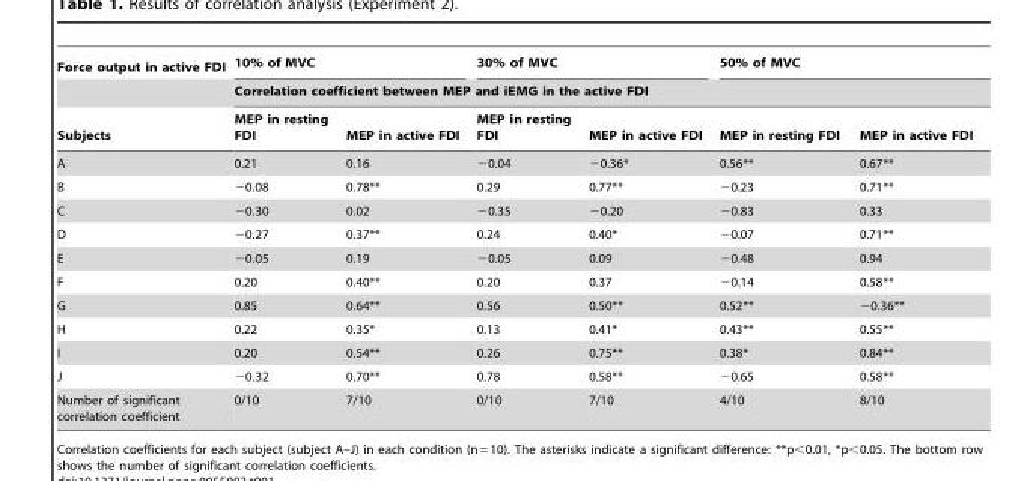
<table><thead><tr><td rowspan="3">Force output in active FDI Subjects</td><td colspan="2">10% of MVC</td><td colspan="2">30% of MVC</td><td colspan="2">50% of MVC</td></tr><tr><td colspan="6">Correlation coefficient between MEP and iEMG in the active FDI</td></tr><tr><td>MEP in resting FDI</td><td>MEP in active FDI</td><td>MEP in resting FDI</td><td>MEP in active FDI</td><td>MEP in resting FDI</td><td>MEP in active FDI</td></tr></thead><tbody><tr><td>A</td><td>0.21</td><td>0.16</td><td>−0.04</td><td>−0.36*</td><td>0.56**</td><td>0.67**</td></tr><tr><td>B</td><td>−0.08</td><td>0.78**</td><td>0.29</td><td>0.77**</td><td>−0.23</td><td>0.71**</td></tr><tr><td>C</td><td>−0.30</td><td>0.02</td><td>−0.35</td><td>−0.20</td><td>−0.83</td><td>0.33</td></tr><tr><td>D</td><td>−0.27</td><td>0.37**</td><td>0.24</td><td>0.40*</td><td>−0.07</td><td>0.71**</td></tr><tr><td>E</td><td>−0.05</td><td>0.19</td><td>−0.05</td><td>0.09</td><td>−0.48</td><td>0.94</td></tr><tr><td>F</td><td>0.20</td><td>0.40**</td><td>0.20</td><td>0.37</td><td>−0.14</td><td>0.58**</td></tr><tr><td>G</td><td>0.85</td><td>0.64**</td><td>0.56</td><td>0.50**</td><td>0.52**</td><td>−0.36**</td></tr><tr><td>H</td><td>0.22</td><td>0.35*</td><td>0.13</td><td>0.41*</td><td>0.43**</td><td>0.55**</td></tr><tr><td>I</td><td>0.20</td><td>0.54**</td><td>0.26</td><td>0.75**</td><td>0.38*</td><td>0.84**</td></tr><tr><td>J</td><td>−0.32</td><td>0.70**</td><td>0.78</td><td>0.58**</td><td>−0.65</td><td>0.58**</td></tr><tr><td>Number of significant correlation coefficient</td><td>0/10</td><td>7/10</td><td>0/10</td><td>7/10</td><td>4/10</td><td>8/10</td></tr></tbody></table>